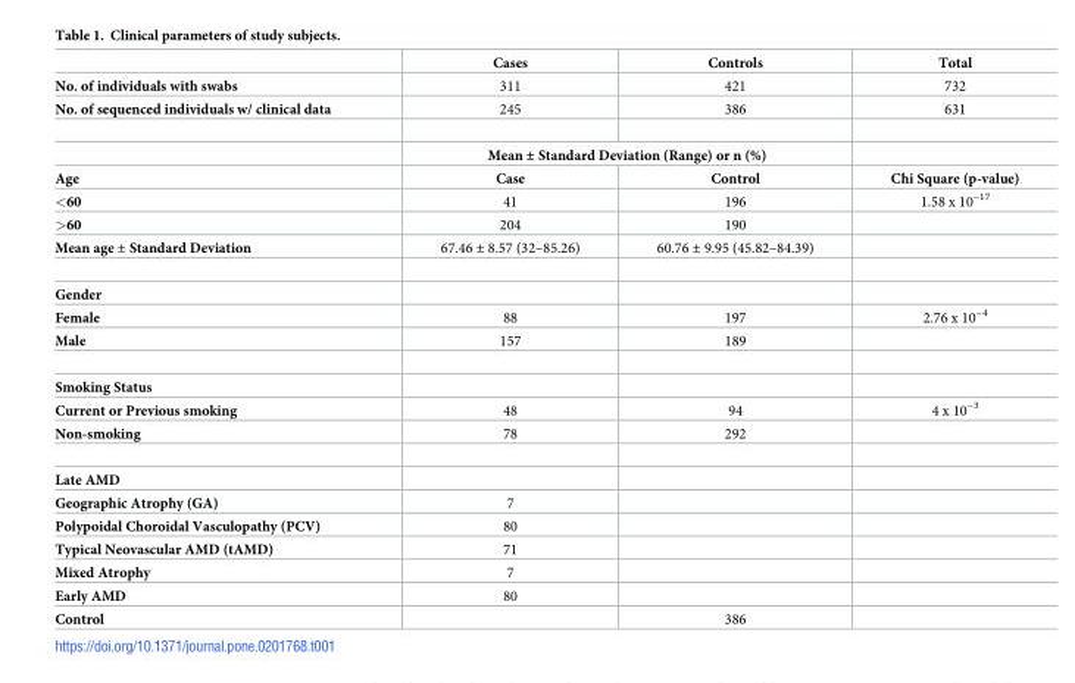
<table><thead><tr><td></td><td>Cases</td><td>Controls</td><td>Total</td></tr></thead><tbody><tr><td>No. of individuals with swabs</td><td>311</td><td>421</td><td>732</td></tr><tr><td rowspan="2">No. of sequenced individuals w/ clinical data</td><td>245</td><td>386</td><td>631</td></tr><tr><td colspan="2">Mean ± Standard Deviation (Range) or n (%)</td><td></td></tr><tr><td>Age</td><td>Case</td><td>Control</td><td>Chi Square (p-value)</td></tr><tr><td>&lt;60</td><td>41</td><td>196</td><td>1.58 x 10<sup>−17</sup></td></tr><tr><td>&gt;60</td><td>204</td><td>190</td><td></td></tr><tr><td>Mean age ± Standard Deviation</td><td>67.46 ± 8.57 (32–85.26)</td><td>60.76 ± 9.95 (45.82–84.39)</td><td></td></tr><tr><td colspan="4">Gender</td></tr><tr><td>Female</td><td>88</td><td>197</td><td>2.76 x 10<sup>−4</sup></td></tr><tr><td>Male</td><td>157</td><td>189</td><td></td></tr><tr><td colspan="4">Smoking Status</td></tr><tr><td>Current or Previous smoking</td><td>48</td><td>94</td><td>4 x 10<sup>−3</sup></td></tr><tr><td>Non-smoking</td><td>78</td><td>292</td><td></td></tr><tr><td colspan="4">Late AMD</td></tr><tr><td>Geographic Atrophy (GA)</td><td>7</td><td></td><td></td></tr><tr><td>Polypoidal Choroidal Vasculopathy (PCV)</td><td>80</td><td></td><td></td></tr><tr><td>Typical Neovascular AMD (tAMD)</td><td>71</td><td></td><td></td></tr><tr><td>Mixed Atrophy</td><td>7</td><td></td><td></td></tr><tr><td>Early AMD</td><td>80</td><td></td><td></td></tr><tr><td>Control</td><td></td><td>386</td><td></td></tr></tbody></table>